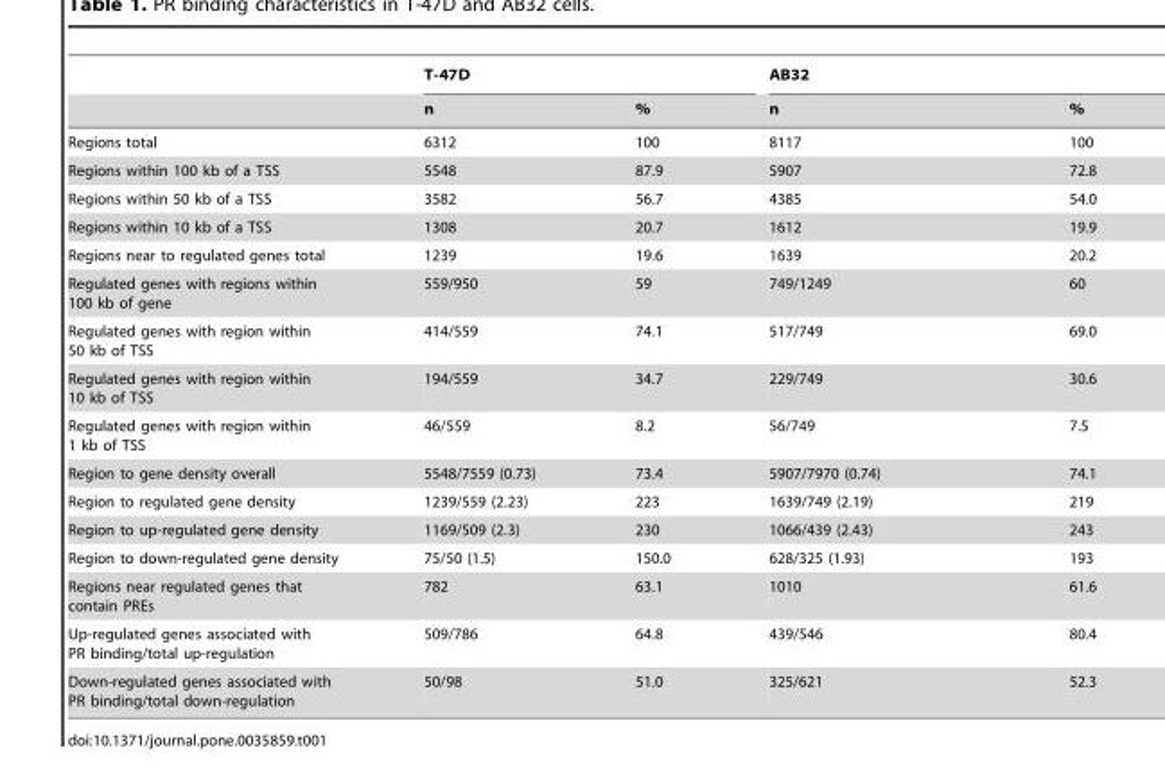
<table><thead><tr><td rowspan="2"></td><td colspan="2">T-47D</td><td colspan="2">AB32</td></tr><tr><td>n</td><td>%</td><td>n</td><td>%</td></tr></thead><tbody><tr><td>Regions total</td><td>6312</td><td>100</td><td>8117</td><td>100</td></tr><tr><td>Regions within 100 kb of a TSS</td><td>5548</td><td>87.9</td><td>5907</td><td>72.8</td></tr><tr><td>Regions within 50 kb of a TSS</td><td>3582</td><td>56.7</td><td>4385</td><td>54.0</td></tr><tr><td>Regions within 10 kb of a TSS</td><td>1308</td><td>20.7</td><td>1612</td><td>19.9</td></tr><tr><td>Regions near to regulated genes total</td><td>1239</td><td>19.6</td><td>1639</td><td>20.2</td></tr><tr><td>Regulated genes with regions within 100 kb of gene</td><td>559/950</td><td>59</td><td>749/1249</td><td>60</td></tr><tr><td>Regulated genes with region within 50 kb of TSS</td><td>414/559</td><td>74.1</td><td>517/749</td><td>69.0</td></tr><tr><td>Regulated genes with region within 10 kb of TSS</td><td>194/559</td><td>34.7</td><td>229/749</td><td>30.6</td></tr><tr><td>Regulated genes with region within 1 kb of TSS</td><td>46/559</td><td>8.2</td><td>56/749</td><td>7.5</td></tr><tr><td>Region to gene density overall</td><td>5548/7559 (0.73)</td><td>73.4</td><td>5907/7970 (0.74)</td><td>74.1</td></tr><tr><td>Region to regulated gene density</td><td>1239/559 (2.23)</td><td>223</td><td>1639/749 (2.19)</td><td>219</td></tr><tr><td>Region to up-regulated gene density</td><td>1169/509 (2.3)</td><td>230</td><td>1066/439 (2.43)</td><td>243</td></tr><tr><td>Region to down-regulated gene density</td><td>75/50 (1.5)</td><td>150.0</td><td>628/325 (1.93)</td><td>193</td></tr><tr><td>Regions near regulated genes that contain PREs</td><td>782</td><td>63.1</td><td>1010</td><td>61.6</td></tr><tr><td>Up-regulated genes associated with PR binding/total up-regulation</td><td>509/786</td><td>64.8</td><td>439/546</td><td>80.4</td></tr><tr><td>Down-regulated genes associated with PR binding/total down-regulation</td><td>50/98</td><td>51.0</td><td>325/621</td><td>52.3</td></tr></tbody></table>